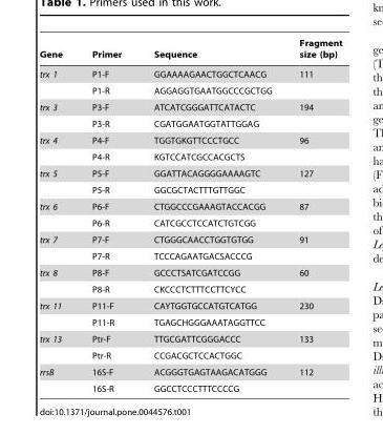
<table><thead><tr><td>Gene</td><td>Primer</td><td>Sequence</td><td>Fragment size (bp)</td></tr></thead><tbody><tr><td rowspan="2">trx 1</td><td>P1-F</td><td>GGAAAAGAACTGGCTCAACG</td><td>111</td></tr><tr><td>P1-R</td><td>AGGAGGTGAATGGCCCGCTGG</td><td></td></tr><tr><td rowspan="2">trx 3</td><td>P3-F</td><td>ATCATCGGGATTCATACTC</td><td>194</td></tr><tr><td>P3-R</td><td>CGATGGAATGGTATTGGAG</td><td></td></tr><tr><td rowspan="2">trx 4</td><td>P4-F</td><td>TGGTGKGTTCCCTGCC</td><td>96</td></tr><tr><td>P4-R</td><td>KGTCCATCGCCACGCTS</td><td></td></tr><tr><td rowspan="2">trx 5</td><td>P5-F</td><td>GGATTACAGGGGAAAAGTC</td><td>127</td></tr><tr><td>P5-R</td><td>GGCGCTACTTTGTTGGC</td><td></td></tr><tr><td rowspan="2">trx 6</td><td>P6-F</td><td>CTGGCCCGAAAGTACCACGG</td><td>87</td></tr><tr><td>P6-R</td><td>CATCGCCTCCATCTGTCGG</td><td></td></tr><tr><td rowspan="2">trx 7</td><td>P7-F</td><td>CTGGGCAACCTGGTGTGG</td><td>91</td></tr><tr><td>P7-R</td><td>TCCCAGAATGACSACCCG</td><td></td></tr><tr><td rowspan="2">trx 8</td><td>P8-F</td><td>GCCCTSATCGATCCGG</td><td>60</td></tr><tr><td>P8-R</td><td>CKCCCTCTTTCCTTCYCC</td><td></td></tr><tr><td rowspan="2">trx 11</td><td>P11-F</td><td>CAYTGGTGCCATGTCATGG</td><td>230</td></tr><tr><td>P11-R</td><td>TGAGCHGGGAAATAGGTTCC</td><td></td></tr><tr><td rowspan="2">trx 13</td><td>Ptr-F</td><td>TTGCGATTCGGGACCC</td><td>133</td></tr><tr><td>Ptr-R</td><td>CCGACGCTCCACTGGC</td><td></td></tr><tr><td rowspan="2">rrsB</td><td>16S-F</td><td>ACGGGTGAGTAAGACATGGG</td><td>112</td></tr><tr><td>16S-R</td><td>GGCCTCCCTTTCCCCG</td><td></td></tr></tbody></table>